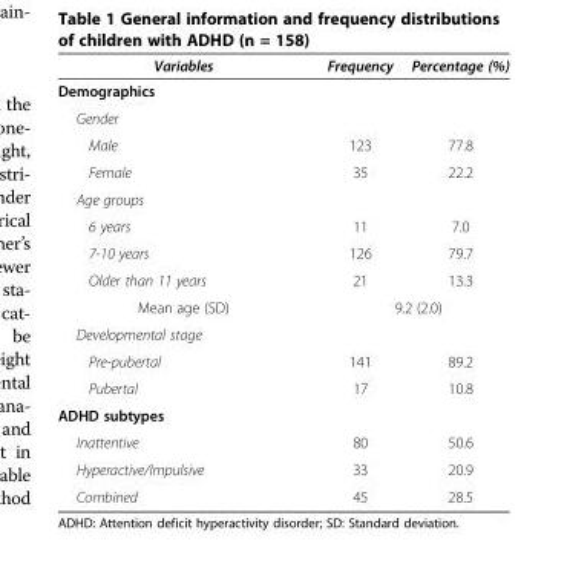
<table><thead><tr><td>Variables</td><td>Frequency</td><td>Percentage (%)</td></tr></thead><tbody><tr><td colspan="3">Demographics</td></tr><tr><td colspan="3">Gender</td></tr><tr><td>Male</td><td>123</td><td>77.8</td></tr><tr><td>Female</td><td>35</td><td>22.2</td></tr><tr><td colspan="3">Age groups</td></tr><tr><td>6 years</td><td>11</td><td>7.0</td></tr><tr><td>7-10 years</td><td>126</td><td>79.7</td></tr><tr><td>Older than 11 years</td><td>21</td><td>13.3</td></tr><tr><td>Mean age (SD)</td><td colspan="2">9.2 (2.0)</td></tr><tr><td colspan="3">Developmental stage</td></tr><tr><td>Pre-pubertal</td><td>141</td><td>89.2</td></tr><tr><td>Pubertal</td><td>17</td><td>10.8</td></tr><tr><td colspan="3">ADHD subtypes</td></tr><tr><td>Inattentive</td><td>80</td><td>50.6</td></tr><tr><td>Hyperactive/Impulsive</td><td>33</td><td>20.9</td></tr><tr><td>Combined</td><td>45</td><td>28.5</td></tr></tbody></table>